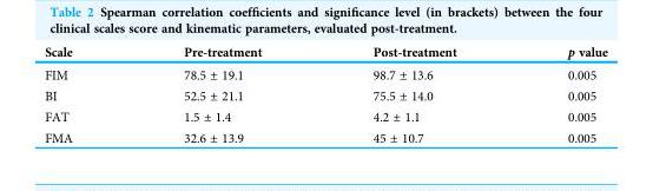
<table><thead><tr><td>Scale</td><td>Pre-treatment</td><td>Post-treatment</td><td>p value</td></tr></thead><tbody><tr><td>FIM</td><td>78.5 ± 19.1</td><td>98.7 ± 13.6</td><td>0.005</td></tr><tr><td>BI</td><td>52.5 ± 21.1</td><td>75.5 ± 14.0</td><td>0.005</td></tr><tr><td>FAT</td><td>1.5 ± 1.4</td><td>4.2 ± 1.1</td><td>0.005</td></tr><tr><td>FMA</td><td>32.6 ± 13.9</td><td>45 ± 10.7</td><td>0.005</td></tr></tbody></table>